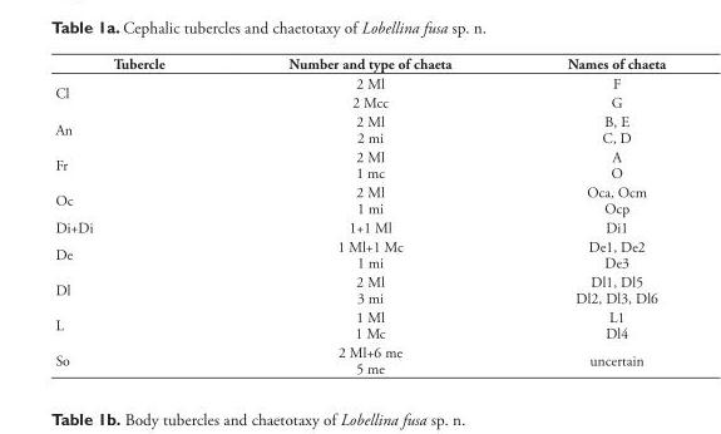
<table><thead><tr><td>Tubercle</td><td>Number and type of chaeta</td><td>Names of chaeta</td></tr></thead><tbody><tr><td rowspan="2">Cl</td><td>2 Ml</td><td>F</td></tr><tr><td>2 Mcc</td><td>G</td></tr><tr><td>An</td><td>2 Ml 2 mi</td><td>B, E C, D</td></tr><tr><td>Fr</td><td>2 Ml 1 mc</td><td>A O</td></tr><tr><td>Oc</td><td>2 Ml 1 mi</td><td>Oca, Ocm Ocp</td></tr><tr><td>Di+Di</td><td>1+1 Ml</td><td>Di1</td></tr><tr><td>De</td><td>1 Ml+1 Mc 1 mi</td><td>De1, De2 De3</td></tr><tr><td>Dl</td><td>2 Ml 3 mi</td><td>Dl1, Dl5 Dl2, Dl3, Dl6</td></tr><tr><td>L</td><td>1 Ml 1 Mc</td><td>L1 Dl4</td></tr><tr><td>So</td><td>2 Ml+6 me 5 me</td><td>uncertain</td></tr></tbody></table>